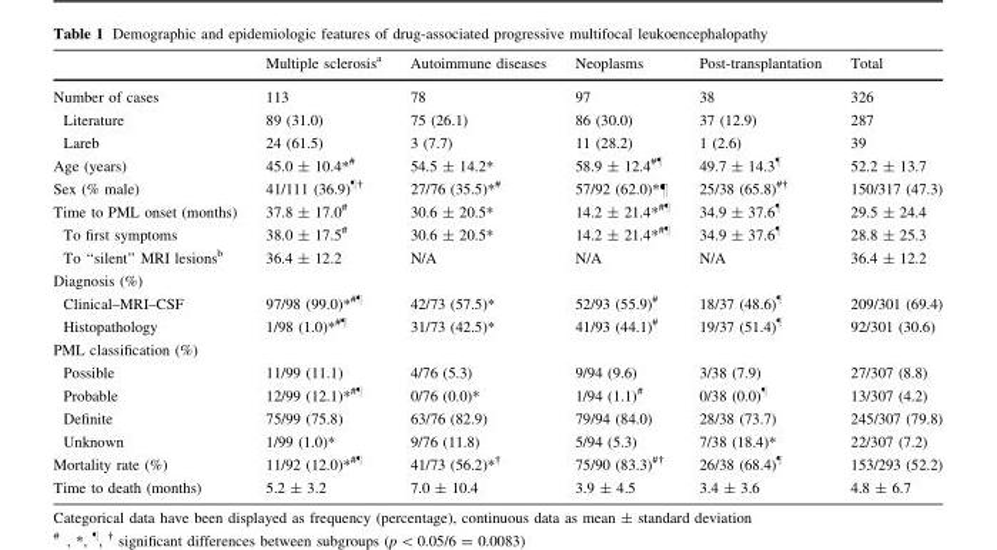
<table><thead><tr><td></td><td>Multiple sclerosis<sup>a</sup></td><td>Autoimmune diseases</td><td>Neoplasms</td><td>Post-transplantation</td><td>Total</td></tr></thead><tbody><tr><td>Number of cases</td><td>113</td><td>78</td><td>97</td><td>38</td><td>326</td></tr><tr><td>Literature</td><td>89 (31.0)</td><td>75 (26.1)</td><td>86 (30.0)</td><td>37 (12.9)</td><td>287</td></tr><tr><td>Lareb</td><td>24 (61.5)</td><td>3 (7.7)</td><td>11 (28.2)</td><td>1 (2.6)</td><td>39</td></tr><tr><td>Age (years)</td><td>45.0 ± 10.4*<sup>#</sup></td><td>54.5 ± 14.2*</td><td>58.9 ± 12.4<sup>#¶</sup></td><td>49.7 ± 14.3<sup>¶</sup></td><td>52.2 ± 13.7</td></tr><tr><td>Sex (% male)</td><td>41/111 (36.9)<sup>¶†</sup></td><td>27/76 (35.5)*<sup>#</sup></td><td>57/92 (62.0)*¶</td><td>25/38 (65.8)<sup>#†</sup></td><td>150/317 (47.3)</td></tr><tr><td>Time to PML onset (months)</td><td>37.8 ± 17.0<sup>#</sup></td><td>30.6 ± 20.5*</td><td>14.2 ± 21.4*<sup>#¶</sup></td><td>34.9 ± 37.6<sup>¶</sup></td><td>29.5 ± 24.4</td></tr><tr><td>To first symptoms</td><td>38.0 ± 17.5<sup>#</sup></td><td>30.6 ± 20.5*</td><td>14.2 ± 21.4*<sup>#¶</sup></td><td>34.9 ± 37.6<sup>¶</sup></td><td>28.8 ± 25.3</td></tr><tr><td>To ‘‘silent’’ MRI lesionsb</td><td>36.4 ± 12.2</td><td>N/A</td><td>N/A</td><td>N/A</td><td>36.4 ± 12.2</td></tr><tr><td colspan="6">Diagnosis (%)</td></tr><tr><td>Clinical–MRI–CSF</td><td>97/98 (99.0)*<sup>#¶</sup></td><td>42/73 (57.5)*</td><td>52/93 (55.9)<sup>#</sup></td><td>18/37 (48.6)<sup>¶</sup></td><td>209/301 (69.4)</td></tr><tr><td>Histopathology</td><td>1/98 (1.0)*<sup>#¶</sup></td><td>31/73 (42.5)*</td><td>41/93 (44.1)<sup>#</sup></td><td>19/37 (51.4)<sup>¶</sup></td><td>92/301 (30.6)</td></tr><tr><td colspan="6">PML classification (%)</td></tr><tr><td>Possible</td><td>11/99 (11.1)</td><td>4/76 (5.3)</td><td>9/94 (9.6)</td><td>3/38 (7.9)</td><td>27/307 (8.8)</td></tr><tr><td>Probable</td><td>12/99 (12.1)*<sup>#¶</sup></td><td>0/76 (0.0)*</td><td>1/94 (1.1)<sup>#</sup></td><td>0/38 (0.0)<sup>¶</sup></td><td>13/307 (4.2)</td></tr><tr><td>Definite</td><td>75/99 (75.8)</td><td>63/76 (82.9)</td><td>79/94 (84.0)</td><td>28/38 (73.7)</td><td>245/307 (79.8)</td></tr><tr><td>Unknown</td><td>1/99 (1.0)*</td><td>9/76 (11.8)</td><td>5/94 (5.3)</td><td>7/38 (18.4)*</td><td>22/307 (7.2)</td></tr><tr><td>Mortality rate (%)</td><td>11/92 (12.0)*<sup>#¶</sup></td><td>41/73 (56.2)*<sup>†</sup></td><td>75/90 (83.3)<sup>#†</sup></td><td>26/38 (68.4)<sup>¶</sup></td><td>153/293 (52.2)</td></tr><tr><td>Time to death (months)</td><td>5.2 ± 3.2</td><td>7.0 ± 10.4</td><td>3.9 ± 4.5</td><td>3.4 ± 3.6</td><td>4.8 ± 6.7</td></tr></tbody></table>